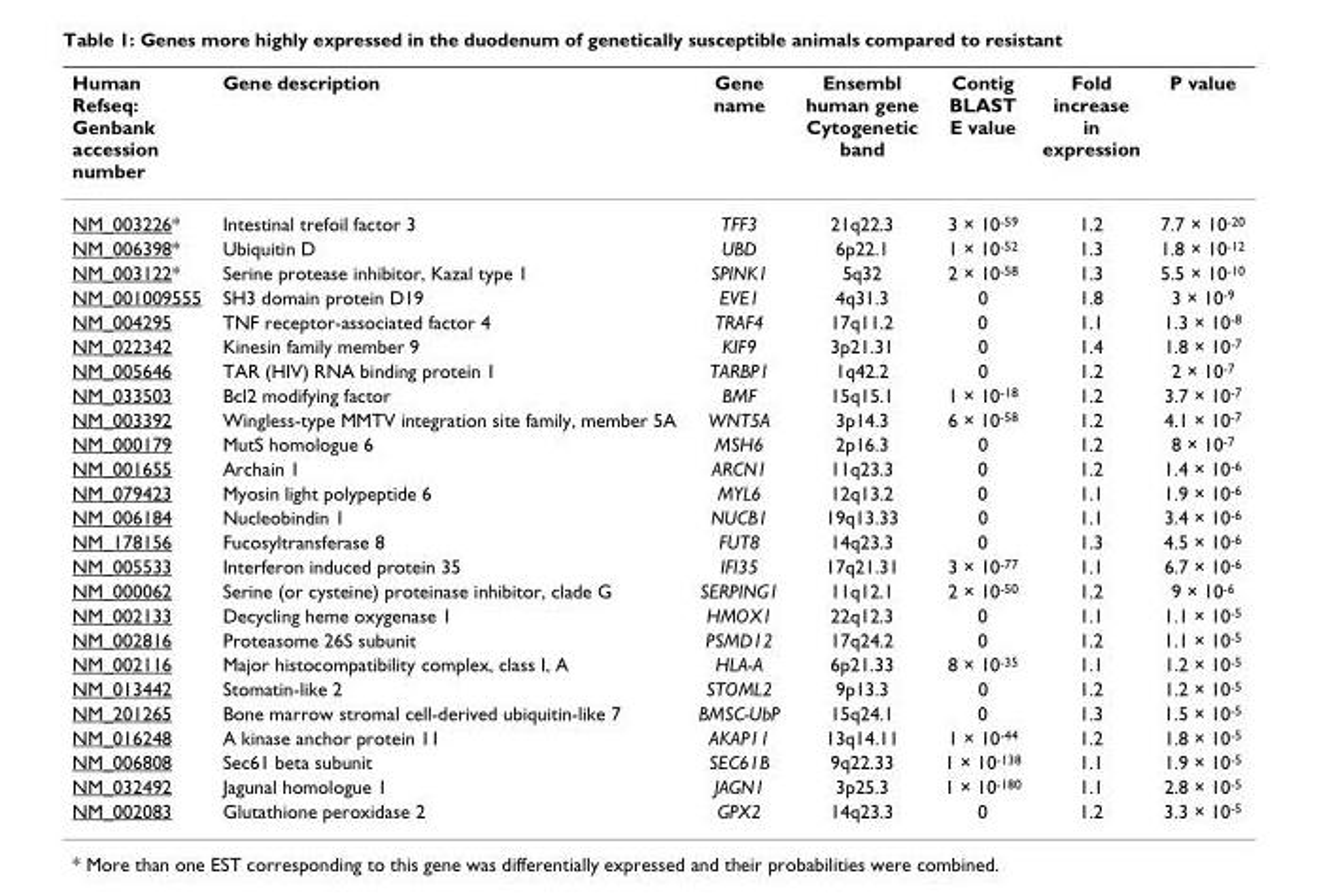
<table><thead><tr><td>Human Refseq: Genbank accession number</td><td>Gene description</td><td>Gene name</td><td>Ensembl human gene Cytogenetic band</td><td>Contig BLAST E value</td><td>Fold increase in expression</td><td>P value</td></tr></thead><tbody><tr><td>NM_003226*</td><td>Intestinal trefoil factor 3</td><td>TFF3</td><td>21q22.3</td><td>3 × 10-59</td><td>1.2</td><td>7.7 × 10-20</td></tr><tr><td>NM_006398*</td><td>Ubiquitin D</td><td>UBD</td><td>6p22.1</td><td>1 × 10-52</td><td>1.3</td><td>1.8 × 10-12</td></tr><tr><td>NM_003122*</td><td>Serine protease inhibitor, Kazal type 1</td><td>SPINK1</td><td>5q32</td><td>2 × 10-58</td><td>1.3</td><td>5.5 × 10-10</td></tr><tr><td>NM_001009555</td><td>SH3 domain protein D19</td><td>EVE1</td><td>4q31.3</td><td>0</td><td>1.8</td><td>3 × 10-9</td></tr><tr><td>NM_004295</td><td>TNF receptor-associated factor 4</td><td>TRAF4</td><td>17q11.2</td><td>0</td><td>1.1</td><td>1.3 × 10-8</td></tr><tr><td>NM_022342</td><td>Kinesin family member 9</td><td>KIF9</td><td>3p21.31</td><td>0</td><td>1.4</td><td>1.8 × 10-7</td></tr><tr><td>NM_005646</td><td>TAR (HIV) RNA binding protein 1</td><td>TARBP1</td><td>1q42.2</td><td>0</td><td>1.2</td><td>2 × 10-7</td></tr><tr><td>NM_033503</td><td>Bcl2 modifying factor</td><td>BMF</td><td>15q15.1</td><td>1 × 10-18</td><td>1.2</td><td>3.7 × 10-7</td></tr><tr><td>NM_003392</td><td>Wingless-type MMTV integration site family, member 5A</td><td>WNT5A</td><td>3p14.3</td><td>6 × 10-58</td><td>1.2</td><td>4.1 × 10-7</td></tr><tr><td>NM_000179</td><td>MutS homologue 6</td><td>MSH6</td><td>2p16.3</td><td>0</td><td>1.2</td><td>8 × 10-7</td></tr><tr><td>NM_001655</td><td>Archain 1</td><td>ARCN1</td><td>11q23.3</td><td>0</td><td>1.2</td><td>1.4 × 10-6</td></tr><tr><td>NM_079423</td><td>Myosin light polypeptide 6</td><td>MYL6</td><td>12q13.2</td><td>0</td><td>1.1</td><td>1.9 × 10-6</td></tr><tr><td>NM_006184</td><td>Nucleobindin 1</td><td>NUCB1</td><td>19q13.33</td><td>0</td><td>1.1</td><td>3.4 × 10-6</td></tr><tr><td>NM_178156</td><td>Fucosyltransferase 8</td><td>FUT8</td><td>14q23.3</td><td>0</td><td>1.3</td><td>4.5 × 10-6</td></tr><tr><td>NM_005533</td><td>Interferon induced protein 35</td><td>IFI35</td><td>17q21.31</td><td>3 × 10-77</td><td>1.1</td><td>6.7 × 10-6</td></tr><tr><td>NM_000062</td><td>Serine (or cysteine) proteinase inhibitor, clade G</td><td>SERPING1</td><td>11q12.1</td><td>2 × 10-50</td><td>1.2</td><td>9 × 10-6</td></tr><tr><td>NM_002133</td><td>Decycling heme oxygenase 1</td><td>HMOX1</td><td>22q12.3</td><td>0</td><td>1.1</td><td>1.1 × 10-5</td></tr><tr><td>NM_002816</td><td>Proteasome 26S subunit</td><td>PSMD12</td><td>17q24.2</td><td>0</td><td>1.2</td><td>1.1 × 10-5</td></tr><tr><td>NM_002116</td><td>Major histocompatibility complex, class I, A</td><td>HLA-A</td><td>6p21.33</td><td>8 × 10-35</td><td>1.1</td><td>1.2 × 10-5</td></tr><tr><td>NM_013442</td><td>Stomatin-like 2</td><td>STOML2</td><td>9p13.3</td><td>0</td><td>1.2</td><td>1.2 × 10-5</td></tr><tr><td>NM_201265</td><td>Bone marrow stromal cell-derived ubiquitin-like 7</td><td>BMSC-UbP</td><td>15q24.1</td><td>0</td><td>1.3</td><td>1.5 × 10-5</td></tr><tr><td>NM_016248</td><td>A kinase anchor protein 11</td><td>AKAP11</td><td>13q14.11</td><td>1 × 10-44</td><td>1.2</td><td>1.8 × 10-5</td></tr><tr><td>NM_006808</td><td>Sec61 beta subunit</td><td>SEC61B</td><td>9q22.33</td><td>1 × 10-138</td><td>1.1</td><td>1.9 × 10-5</td></tr><tr><td>NM_032492</td><td>Jagunal homologue 1</td><td>JAGN1</td><td>3p25.3</td><td>1 × 10-180</td><td>1.1</td><td>2.8 × 10-5</td></tr><tr><td>NM_002083</td><td>Glutathione peroxidase 2</td><td>GPX2</td><td>14q23.3</td><td>0</td><td>1.2</td><td>3.3 × 10-5</td></tr></tbody></table>